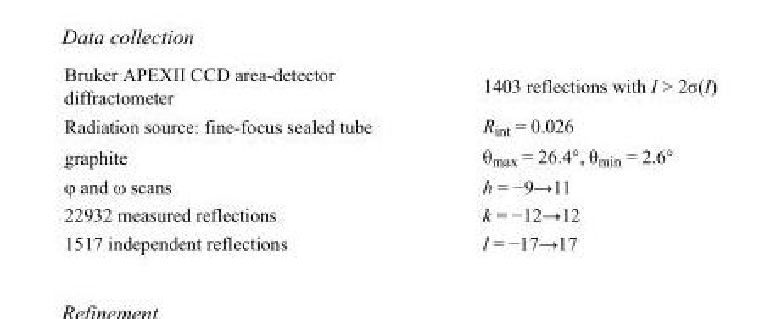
<table><tbody><tr><td>Bruker APEXII CCD area-detector diffractometer</td><td>1403 reflections with I &gt; 2σ(I)</td></tr><tr><td>Radiation source: fine-focus sealed tube</td><td>R<sub>int</sub> = 0.026</td></tr><tr><td>graphite</td><td>θ<sub>max</sub> = 26.4°, θ<sub>min</sub> = 2.6°</td></tr><tr><td>φ and ω scans</td><td>h = −9→11</td></tr><tr><td>22932 measured reflections</td><td>k = −12→12</td></tr><tr><td>1517 independent reflections</td><td>l = −17→17</td></tr></tbody></table>